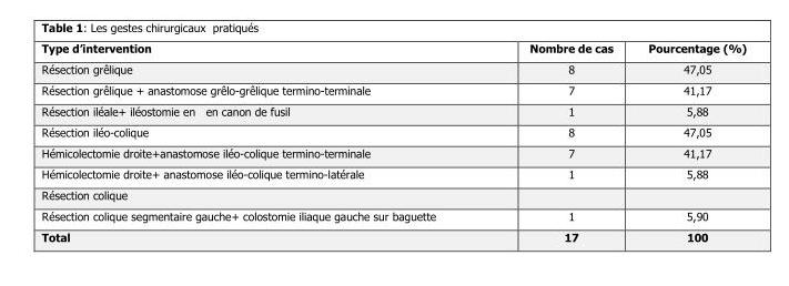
<table><thead><tr><td>Type d’intervention</td><td>Nombre de cas</td><td>Pourcentage (%)</td></tr></thead><tbody><tr><td>Résection grêlique</td><td>8</td><td>47,05</td></tr><tr><td>Résection grêlique + anastomose grêlo-grêlique termino-terminale</td><td>7</td><td>41,17</td></tr><tr><td>Résection iléale+ iléostomie en en canon de fusil</td><td>1</td><td>5,88</td></tr><tr><td>Résection iléo-colique</td><td>8</td><td>47,05</td></tr><tr><td>Hémicolectomie droite+anastomose iléo-colique termino-terminale</td><td>7</td><td>41,17</td></tr><tr><td>Hémicolectomie droite+ anastomose iléo-colique termino-latérale</td><td>1</td><td>5,88</td></tr><tr><td colspan="3">Résection colique</td></tr><tr><td>Résection colique segmentaire gauche+ colostomie iliaque gauche sur baguette</td><td>1</td><td>5,90</td></tr><tr><td>Total</td><td>17</td><td>100</td></tr></tbody></table>